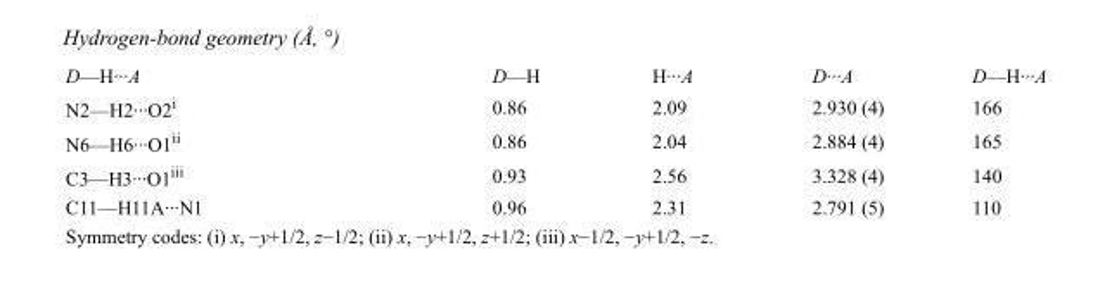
<table><tbody><tr><td>D—H···A</td><td>D—H</td><td>H···A</td><td>D···A</td><td>D—H···A</td></tr><tr><td>N2—H2···O2<sup>i</sup></td><td>0.86</td><td>2.09</td><td>2.930 (4)</td><td>166</td></tr><tr><td>N6—H6···O1<sup>ii</sup></td><td>0.86</td><td>2.04</td><td>2.884 (4)</td><td>165</td></tr><tr><td>C3—H3···O1<sup>iii</sup></td><td>0.93</td><td>2.56</td><td>3.328 (4)</td><td>140</td></tr><tr><td>C11—H11A···N1</td><td>0.96</td><td>2.31</td><td>2.791 (5)</td><td>110</td></tr></tbody></table>